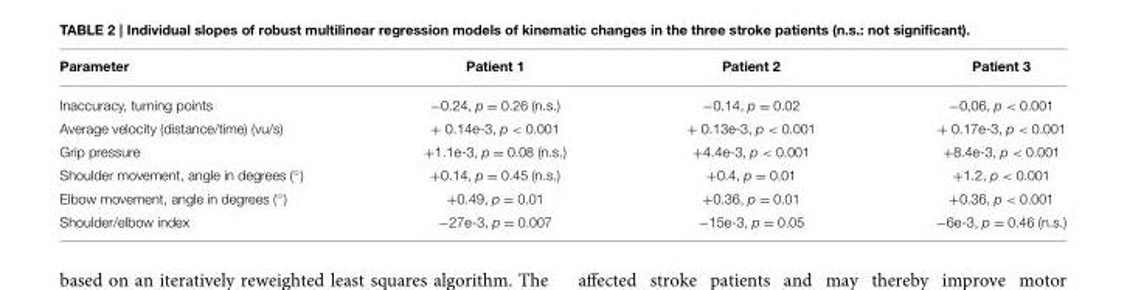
<table><thead><tr><td>Parameter</td><td>Patient 1</td><td>Patient 2</td><td>Patient 3</td></tr></thead><tbody><tr><td>Inaccuracy, turning points</td><td>−0.24, p = 0.26 (n.s.)</td><td>−0.14, p = 0.02</td><td>−0,06, p &lt; 0.001</td></tr><tr><td>Average velocity (distance/time) (vu/s)</td><td>+ 0.14e-3, p &lt; 0.001</td><td>+ 0.13e-3, p &lt; 0.001</td><td>+ 0.17e-3, p &lt; 0.001</td></tr><tr><td>Grip pressure</td><td>+1.1e-3, p = 0.08 (n.s.)</td><td>+4.4e-3, p &lt; 0.001</td><td>+8.4e-3, p &lt; 0.001</td></tr><tr><td>Shoulder movement, angle in degrees (◦)</td><td>+0.14, p = 0.45 (n.s.)</td><td>+0.4, p = 0.01</td><td>+1.2, p &lt; 0.001</td></tr><tr><td>Elbow movement, angle in degrees (◦)</td><td>+0.49, p = 0.01</td><td>+0.36, p = 0.01</td><td>+0.36, p &lt; 0.001</td></tr><tr><td>Shoulder/elbow index</td><td>−27e-3, p = 0.007</td><td>−15e-3, p = 0.05</td><td>−6e-3, p = 0.46 (n.s.)</td></tr></tbody></table>